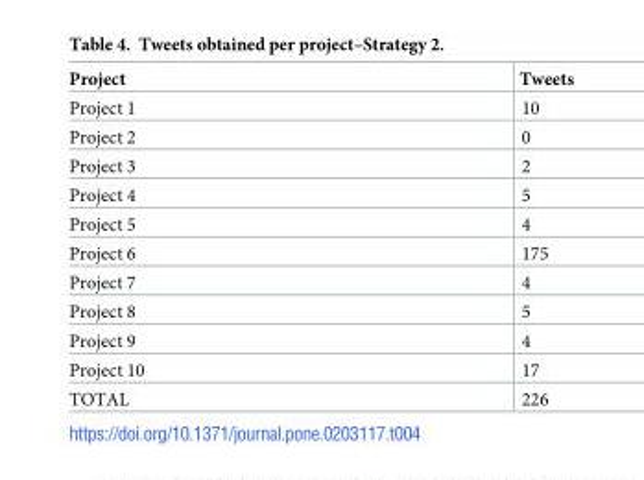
<table><thead><tr><td>Project</td><td>Tweets</td></tr></thead><tbody><tr><td>Project 1</td><td>10</td></tr><tr><td>Project 2</td><td>0</td></tr><tr><td>Project 3</td><td>2</td></tr><tr><td>Project 4</td><td>5</td></tr><tr><td>Project 5</td><td>4</td></tr><tr><td>Project 6</td><td>175</td></tr><tr><td>Project 7</td><td>4</td></tr><tr><td>Project 8</td><td>5</td></tr><tr><td>Project 9</td><td>4</td></tr><tr><td>Project 10</td><td>17</td></tr><tr><td>TOTAL</td><td>226</td></tr></tbody></table>